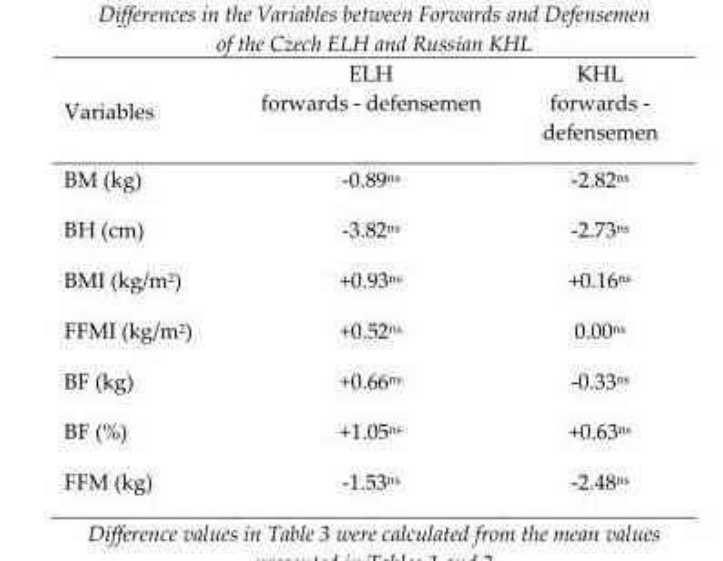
<table><thead><tr><td>Variables</td><td>ELH forwards - defensemen</td><td>KHL forwards - defensemen</td></tr></thead><tbody><tr><td>BM (kg)</td><td>-0.89<sup>ns</sup></td><td>-2.82<sup>ns</sup></td></tr><tr><td>BH (cm)</td><td>-3.82<sup>ns</sup></td><td>-2.73<sup>ns</sup></td></tr><tr><td>BMI (kg/m<sup>2</sup>)</td><td>+0.93<sup>ns</sup></td><td>+0.16<sup>ns</sup></td></tr><tr><td>FFMI (kg/m<sup>2</sup>)</td><td>+0.52<sup>ns</sup></td><td>0.00<sup>ns</sup></td></tr><tr><td>BF (kg)</td><td>+0.66<sup>ns</sup></td><td>-0.33<sup>ns</sup></td></tr><tr><td>BF (%)</td><td>+1.05<sup>ns</sup></td><td>+0.63<sup>ns</sup></td></tr><tr><td>FFM (kg)</td><td>-1.53<sup>ns</sup></td><td>-2.48<sup>ns</sup></td></tr></tbody></table>